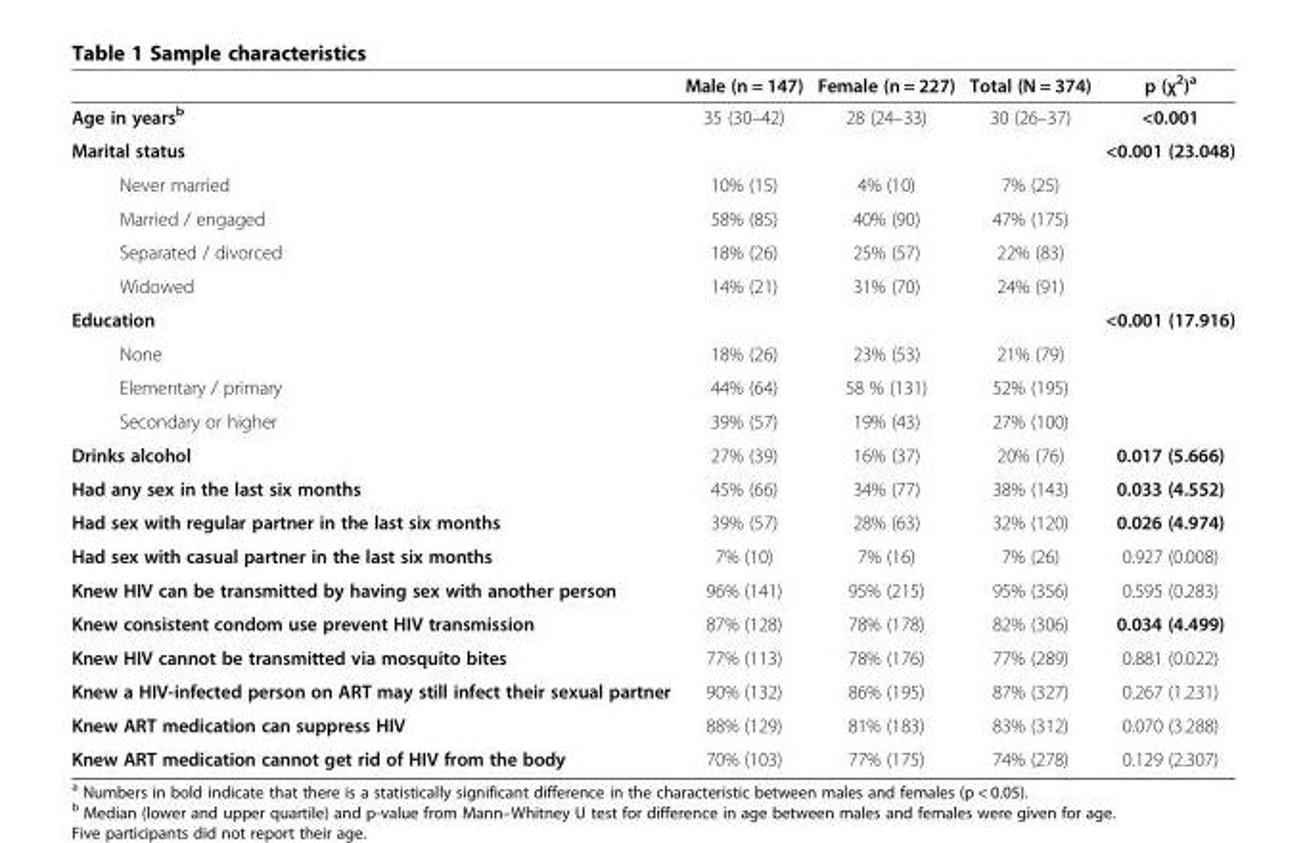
<table><thead><tr><td></td><td>Male (n = 147)</td><td>Female (n = 227)</td><td>Total (N = 374)</td><td>p (χ<sup>2</sup>)<sup>a</sup></td></tr></thead><tbody><tr><td>Age in years<sup>b</sup></td><td>35 (30–42)</td><td>28 (24–33)</td><td>30 (26–37)</td><td>&lt;0.001</td></tr><tr><td>Marital status</td><td></td><td></td><td></td><td>&lt;0.001 (23.048)</td></tr><tr><td>Never married</td><td>10% (15)</td><td>4% (10)</td><td>7% (25)</td><td></td></tr><tr><td>Married / engaged</td><td>58% (85)</td><td>40% (90)</td><td>47% (175)</td><td></td></tr><tr><td>Separated / divorced</td><td>18% (26)</td><td>25% (57)</td><td>22% (83)</td><td></td></tr><tr><td>Widowed</td><td>14% (21)</td><td>31% (70)</td><td>24% (91)</td><td></td></tr><tr><td>Education</td><td></td><td></td><td></td><td>&lt;0.001 (17.916)</td></tr><tr><td>None</td><td>18% (26)</td><td>23% (53)</td><td>21% (79)</td><td></td></tr><tr><td>Elementary / primary</td><td>44% (64)</td><td>58 % (131)</td><td>52% (195)</td><td></td></tr><tr><td>Secondary or higher</td><td>39% (57)</td><td>19% (43)</td><td>27% (100)</td><td></td></tr><tr><td>Drinks alcohol</td><td>27% (39)</td><td>16% (37)</td><td>20% (76)</td><td>0.017 (5.666)</td></tr><tr><td>Had any sex in the last six months</td><td>45% (66)</td><td>34% (77)</td><td>38% (143)</td><td>0.033 (4.552)</td></tr><tr><td>Had sex with regular partner in the last six months</td><td>39% (57)</td><td>28% (63)</td><td>32% (120)</td><td>0.026 (4.974)</td></tr><tr><td>Had sex with casual partner in the last six months</td><td>7% (10)</td><td>7% (16)</td><td>7% (26)</td><td>0.927 (0.008)</td></tr><tr><td>Knew HIV can be transmitted by having sex with another person</td><td>96% (141)</td><td>95% (215)</td><td>95% (356)</td><td>0.595 (0.283)</td></tr><tr><td>Knew consistent condom use prevent HIV transmission</td><td>87% (128)</td><td>78% (178)</td><td>82% (306)</td><td>0.034 (4.499)</td></tr><tr><td>Knew HIV cannot be transmitted via mosquito bites</td><td>77% (113)</td><td>78% (176)</td><td>77% (289)</td><td>0.881 (0.022)</td></tr><tr><td>Knew a HIV-infected person on ART may still infect their sexual partner</td><td>90% (132)</td><td>86% (195)</td><td>87% (327)</td><td>0.267 (1.231)</td></tr><tr><td>Knew ART medication can suppress HIV</td><td>88% (129)</td><td>81% (183)</td><td>83% (312)</td><td>0.070 (3.288)</td></tr><tr><td>Knew ART medication cannot get rid of HIV from the body</td><td>70% (103)</td><td>77% (175)</td><td>74% (278)</td><td>0.129 (2.307)</td></tr></tbody></table>